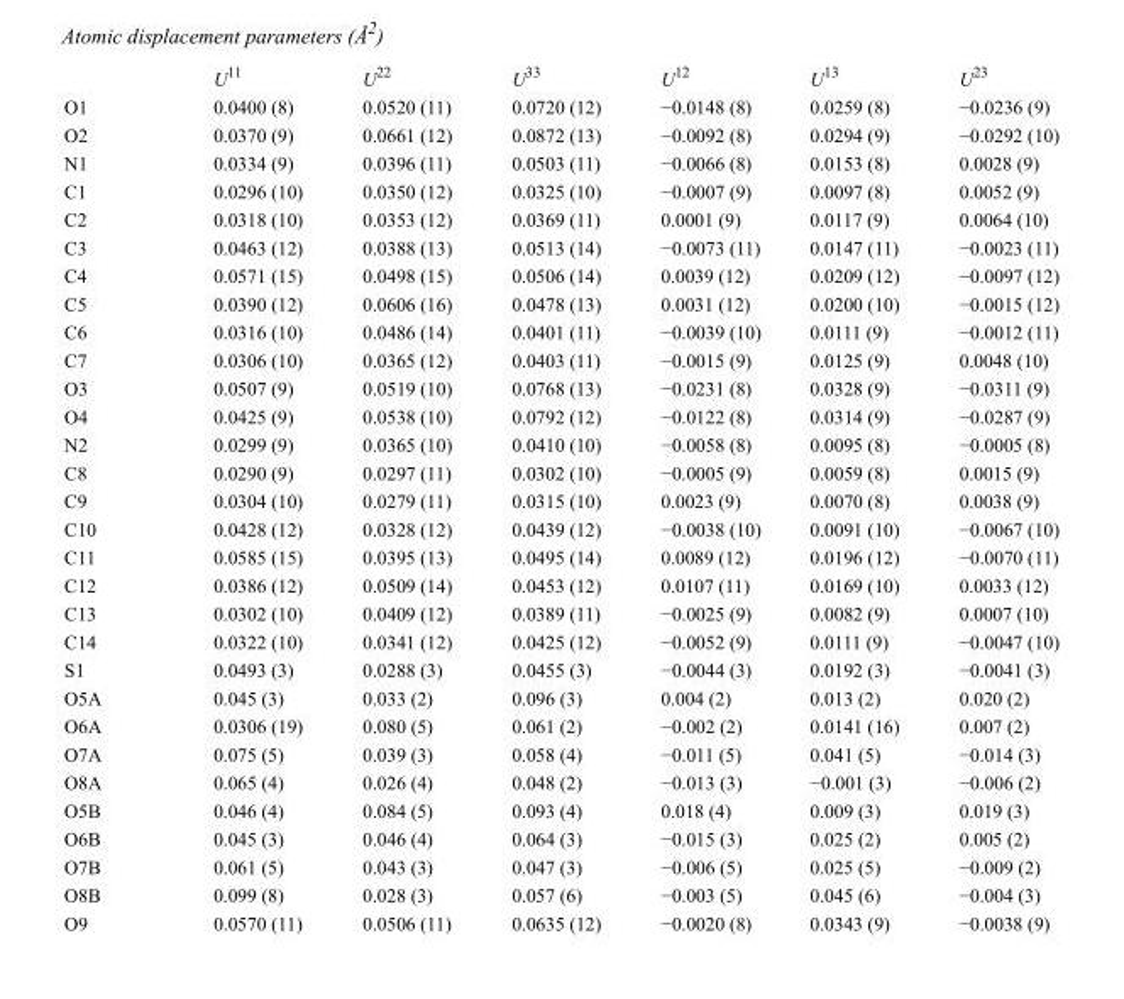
<table><thead><tr><td></td><td>U<sup>11</sup></td><td>U<sup>22</sup></td><td>U<sup>33</sup></td><td>U<sup>12</sup></td><td>U<sup>13</sup></td><td>U<sup>23</sup></td></tr></thead><tbody><tr><td>O1</td><td>0.0400 (8)</td><td>0.0520 (11)</td><td>0.0720 (12)</td><td>−0.0148 (8)</td><td>0.0259 (8)</td><td>−0.0236 (9)</td></tr><tr><td>O2</td><td>0.0370 (9)</td><td>0.0661 (12)</td><td>0.0872 (13)</td><td>−0.0092 (8)</td><td>0.0294 (9)</td><td>−0.0292 (10)</td></tr><tr><td>N1</td><td>0.0334 (9)</td><td>0.0396 (11)</td><td>0.0503 (11)</td><td>−0.0066 (8)</td><td>0.0153 (8)</td><td>0.0028 (9)</td></tr><tr><td>C1</td><td>0.0296 (10)</td><td>0.0350 (12)</td><td>0.0325 (10)</td><td>−0.0007 (9)</td><td>0.0097 (8)</td><td>0.0052 (9)</td></tr><tr><td>C2</td><td>0.0318 (10)</td><td>0.0353 (12)</td><td>0.0369 (11)</td><td>0.0001 (9)</td><td>0.0117 (9)</td><td>0.0064 (10)</td></tr><tr><td>C3</td><td>0.0463 (12)</td><td>0.0388 (13)</td><td>0.0513 (14)</td><td>−0.0073 (11)</td><td>0.0147 (11)</td><td>−0.0023 (11)</td></tr><tr><td>C4</td><td>0.0571 (15)</td><td>0.0498 (15)</td><td>0.0506 (14)</td><td>0.0039 (12)</td><td>0.0209 (12)</td><td>−0.0097 (12)</td></tr><tr><td>C5</td><td>0.0390 (12)</td><td>0.0606 (16)</td><td>0.0478 (13)</td><td>0.0031 (12)</td><td>0.0200 (10)</td><td>−0.0015 (12)</td></tr><tr><td>C6</td><td>0.0316 (10)</td><td>0.0486 (14)</td><td>0.0401 (11)</td><td>−0.0039 (10)</td><td>0.0111 (9)</td><td>−0.0012 (11)</td></tr><tr><td>C7</td><td>0.0306 (10)</td><td>0.0365 (12)</td><td>0.0403 (11)</td><td>−0.0015 (9)</td><td>0.0125 (9)</td><td>0.0048 (10)</td></tr><tr><td>O3</td><td>0.0507 (9)</td><td>0.0519 (10)</td><td>0.0768 (13)</td><td>−0.0231 (8)</td><td>0.0328 (9)</td><td>−0.0311 (9)</td></tr><tr><td>O4</td><td>0.0425 (9)</td><td>0.0538 (10)</td><td>0.0792 (12)</td><td>−0.0122 (8)</td><td>0.0314 (9)</td><td>−0.0287 (9)</td></tr><tr><td>N2</td><td>0.0299 (9)</td><td>0.0365 (10)</td><td>0.0410 (10)</td><td>−0.0058 (8)</td><td>0.0095 (8)</td><td>−0.0005 (8)</td></tr><tr><td>C8</td><td>0.0290 (9)</td><td>0.0297 (11)</td><td>0.0302 (10)</td><td>−0.0005 (9)</td><td>0.0059 (8)</td><td>0.0015 (9)</td></tr><tr><td>C9</td><td>0.0304 (10)</td><td>0.0279 (11)</td><td>0.0315 (10)</td><td>0.0023 (9)</td><td>0.0070 (8)</td><td>0.0038 (9)</td></tr><tr><td>C10</td><td>0.0428 (12)</td><td>0.0328 (12)</td><td>0.0439 (12)</td><td>−0.0038 (10)</td><td>0.0091 (10)</td><td>−0.0067 (10)</td></tr><tr><td>C11</td><td>0.0585 (15)</td><td>0.0395 (13)</td><td>0.0495 (14)</td><td>0.0089 (12)</td><td>0.0196 (12)</td><td>−0.0070 (11)</td></tr><tr><td>C12</td><td>0.0386 (12)</td><td>0.0509 (14)</td><td>0.0453 (12)</td><td>0.0107 (11)</td><td>0.0169 (10)</td><td>0.0033 (12)</td></tr><tr><td>C13</td><td>0.0302 (10)</td><td>0.0409 (12)</td><td>0.0389 (11)</td><td>−0.0025 (9)</td><td>0.0082 (9)</td><td>0.0007 (10)</td></tr><tr><td>C14</td><td>0.0322 (10)</td><td>0.0341 (12)</td><td>0.0425 (12)</td><td>−0.0052 (9)</td><td>0.0111 (9)</td><td>−0.0047 (10)</td></tr><tr><td>S1</td><td>0.0493 (3)</td><td>0.0288 (3)</td><td>0.0455 (3)</td><td>−0.0044 (3)</td><td>0.0192 (3)</td><td>−0.0041 (3)</td></tr><tr><td>O5A</td><td>0.045 (3)</td><td>0.033 (2)</td><td>0.096 (3)</td><td>0.004 (2)</td><td>0.013 (2)</td><td>0.020 (2)</td></tr><tr><td>O6A</td><td>0.0306 (19)</td><td>0.080 (5)</td><td>0.061 (2)</td><td>−0.002 (2)</td><td>0.0141 (16)</td><td>0.007 (2)</td></tr><tr><td>O7A</td><td>0.075 (5)</td><td>0.039 (3)</td><td>0.058 (4)</td><td>−0.011 (5)</td><td>0.041 (5)</td><td>−0.014 (3)</td></tr><tr><td>O8A</td><td>0.065 (4)</td><td>0.026 (4)</td><td>0.048 (2)</td><td>−0.013 (3)</td><td>−0.001 (3)</td><td>−0.006 (2)</td></tr><tr><td>O5B</td><td>0.046 (4)</td><td>0.084 (5)</td><td>0.093 (4)</td><td>0.018 (4)</td><td>0.009 (3)</td><td>0.019 (3)</td></tr><tr><td>O6B</td><td>0.045 (3)</td><td>0.046 (4)</td><td>0.064 (3)</td><td>−0.015 (3)</td><td>0.025 (2)</td><td>0.005 (2)</td></tr><tr><td>O7B</td><td>0.061 (5)</td><td>0.043 (3)</td><td>0.047 (3)</td><td>−0.006 (5)</td><td>0.025 (5)</td><td>−0.009 (2)</td></tr><tr><td>O8B</td><td>0.099 (8)</td><td>0.028 (3)</td><td>0.057 (6)</td><td>−0.003 (5)</td><td>0.045 (6)</td><td>−0.004 (3)</td></tr><tr><td>O9</td><td>0.0570 (11)</td><td>0.0506 (11)</td><td>0.0635 (12)</td><td>−0.0020 (8)</td><td>0.0343 (9)</td><td>−0.0038 (9)</td></tr></tbody></table>